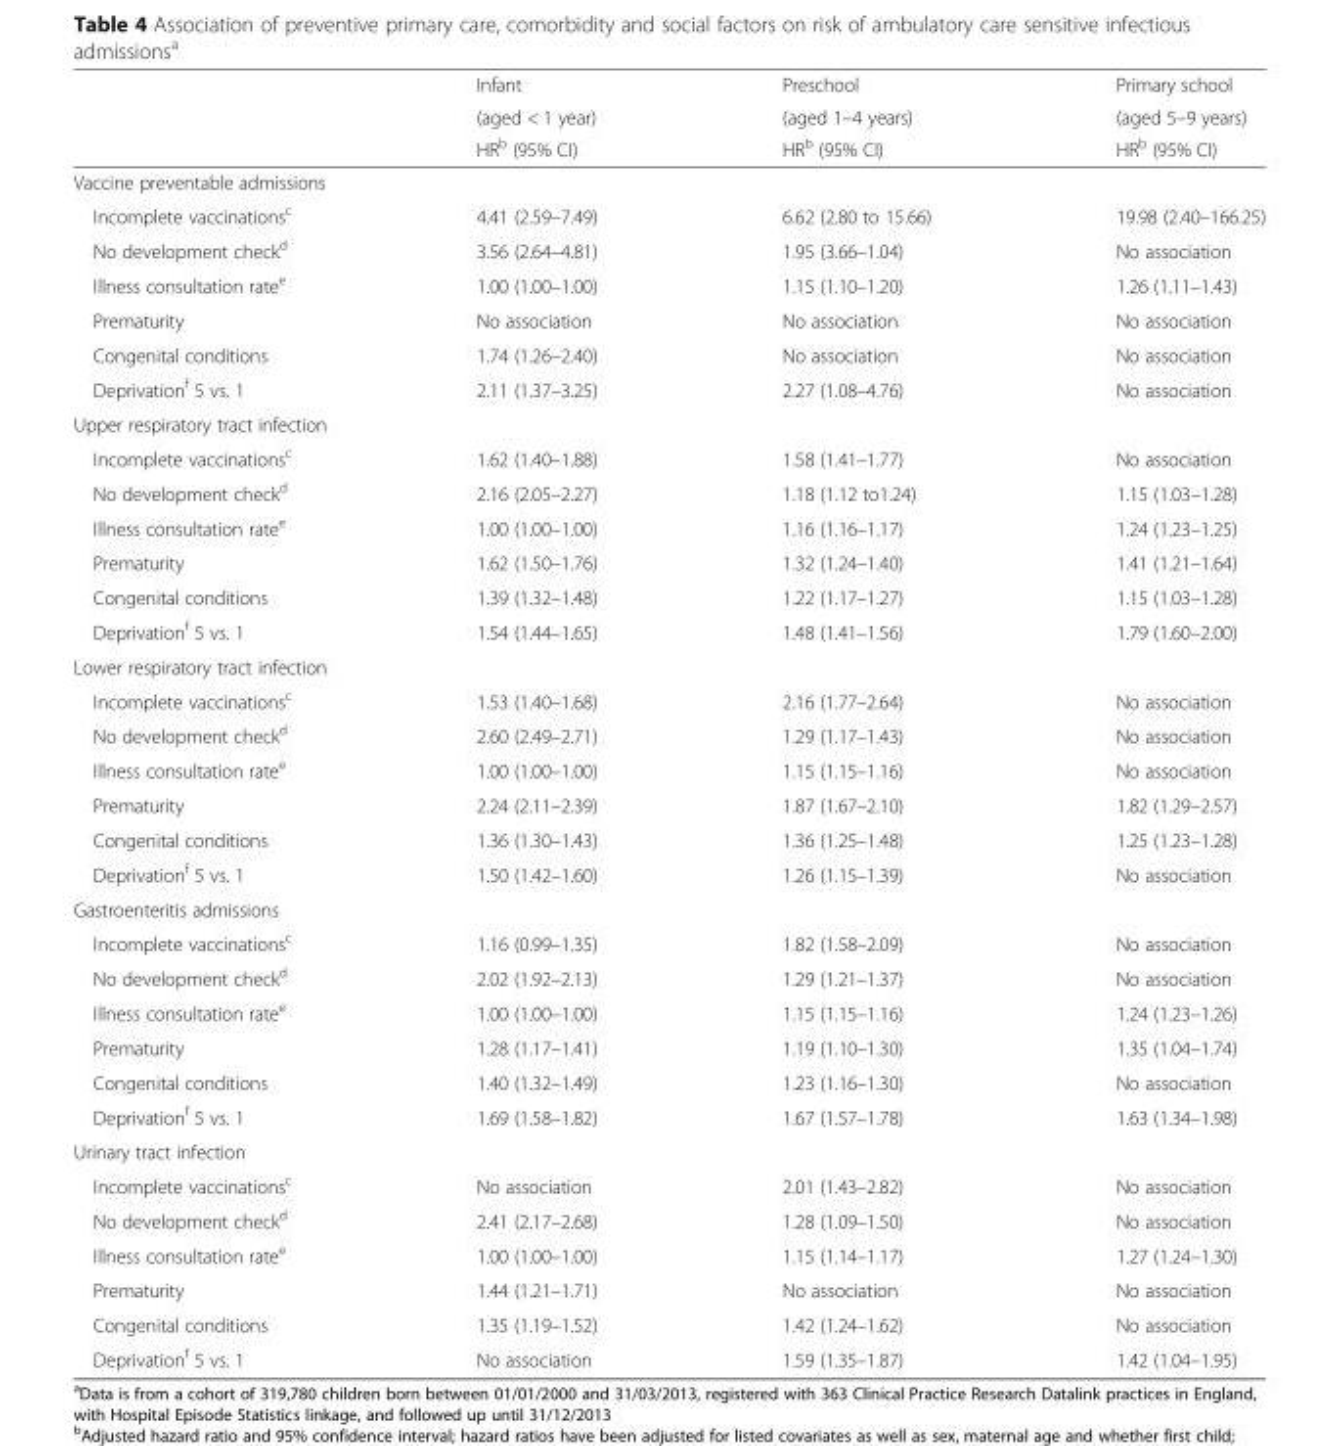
<table><thead><tr><td rowspan="3"></td><td rowspan="3">Infant (aged &lt; 1 year) HR<sup>b</sup> (95% CI)</td><td rowspan="3">Preschool (aged 1–4 years) HR<sup>b</sup> (95% CI)</td><td rowspan="3">Primary school (aged 5–9 years) HR<sup>b</sup> (95% CI)</td></tr><tr></tr><tr></tr></thead><tbody><tr><td colspan="4">Vaccine preventable admissions</td></tr><tr><td>Incomplete vaccinations<sup>c</sup></td><td>4.41 (2.59–7.49)</td><td>6.62 (2.80 to 15.66)</td><td>19.98 (2.40–166.25)</td></tr><tr><td>No development check<sup>d</sup></td><td>3.56 (2.64–4.81)</td><td>1.95 (3.66–1.04)</td><td>No association</td></tr><tr><td>Illness consultation rate<sup>e</sup></td><td>1.00 (1.00–1.00)</td><td>1.15 (1.10–1.20)</td><td>1.26 (1.11–1.43)</td></tr><tr><td>Prematurity</td><td>No association</td><td>No association</td><td>No association</td></tr><tr><td>Congenital conditions</td><td>1.74 (1.26–2.40)</td><td>No association</td><td>No association</td></tr><tr><td>Deprivation<sup>f</sup> 5 vs. 1</td><td>2.11 (1.37–3.25)</td><td>2.27 (1.08–4.76)</td><td>No association</td></tr><tr><td colspan="4">Upper respiratory tract infection</td></tr><tr><td>Incomplete vaccinations<sup>c</sup></td><td>1.62 (1.40–1.88)</td><td>1.58 (1.41–1.77)</td><td>No association</td></tr><tr><td>No development check<sup>d</sup></td><td>2.16 (2.05–2.27)</td><td>1.18 (1.12 to1.24)</td><td>1.15 (1.03–1.28)</td></tr><tr><td>Illness consultation rate<sup>e</sup></td><td>1.00 (1.00–1.00)</td><td>1.16 (1.16–1.17)</td><td>1.24 (1.23–1.25)</td></tr><tr><td>Prematurity</td><td>1.62 (1.50–1.76)</td><td>1.32 (1.24–1.40)</td><td>1.41 (1.21–1.64)</td></tr><tr><td>Congenital conditions</td><td>1.39 (1.32–1.48)</td><td>1.22 (1.17–1.27)</td><td>1.15 (1.03–1.28)</td></tr><tr><td>Deprivation<sup>f</sup> 5 vs. 1</td><td>1.54 (1.44–1.65)</td><td>1.48 (1.41–1.56)</td><td>1.79 (1.60–2.00)</td></tr><tr><td colspan="4">Lower respiratory tract infection</td></tr><tr><td>Incomplete vaccinations<sup>c</sup></td><td>1.53 (1.40–1.68)</td><td>2.16 (1.77–2.64)</td><td>No association</td></tr><tr><td>No development check<sup>d</sup></td><td>2.60 (2.49–2.71)</td><td>1.29 (1.17–1.43)</td><td>No association</td></tr><tr><td>Illness consultation rate<sup>e</sup></td><td>1.00 (1.00–1.00)</td><td>1.15 (1.15–1.16)</td><td>No association</td></tr><tr><td>Prematurity</td><td>2.24 (2.11–2.39)</td><td>1.87 (1.67–2.10)</td><td>1.82 (1.29–2.57)</td></tr><tr><td>Congenital conditions</td><td>1.36 (1.30–1.43)</td><td>1.36 (1.25–1.48)</td><td>1.25 (1.23–1.28)</td></tr><tr><td>Deprivation<sup>f</sup> 5 vs. 1</td><td>1.50 (1.42–1.60)</td><td>1.26 (1.15–1.39)</td><td>No association</td></tr><tr><td colspan="4">Gastroenteritis admissions</td></tr><tr><td>Incomplete vaccinations<sup>c</sup></td><td>1.16 (0.99–1.35)</td><td>1.82 (1.58–2.09)</td><td>No association</td></tr><tr><td>No development check<sup>d</sup></td><td>2.02 (1.92–2.13)</td><td>1.29 (1.21–1.37)</td><td>No association</td></tr><tr><td>Illness consultation rate<sup>e</sup></td><td>1.00 (1.00–1.00)</td><td>1.15 (1.15–1.16)</td><td>1.24 (1.23–1.26)</td></tr><tr><td>Prematurity</td><td>1.28 (1.17–1.41)</td><td>1.19 (1.10–1.30)</td><td>1.35 (1.04–1.74)</td></tr><tr><td>Congenital conditions</td><td>1.40 (1.32–1.49)</td><td>1.23 (1.16–1.30)</td><td>No association</td></tr><tr><td>Deprivation<sup>f</sup> 5 vs. 1</td><td>1.69 (1.58–1.82)</td><td>1.67 (1.57–1.78)</td><td>1.63 (1.34–1.98)</td></tr><tr><td colspan="4">Urinary tract infection</td></tr><tr><td>Incomplete vaccinations<sup>c</sup></td><td>No association</td><td>2.01 (1.43–2.82)</td><td>No association</td></tr><tr><td>No development check<sup>d</sup></td><td>2.41 (2.17–2.68)</td><td>1.28 (1.09–1.50)</td><td>No association</td></tr><tr><td>Illness consultation rate<sup>e</sup></td><td>1.00 (1.00–1.00)</td><td>1.15 (1.14–1.17)</td><td>1.27 (1.24–1.30)</td></tr><tr><td>Prematurity</td><td>1.44 (1.21–1.71)</td><td>No association</td><td>No association</td></tr><tr><td>Congenital conditions</td><td>1.35 (1.19–1.52)</td><td>1.42 (1.24–1.62)</td><td>No association</td></tr><tr><td>Deprivation<sup>f</sup> 5 vs. 1</td><td>No association</td><td>1.59 (1.35–1.87)</td><td>1.42 (1.04–1.95)</td></tr></tbody></table>